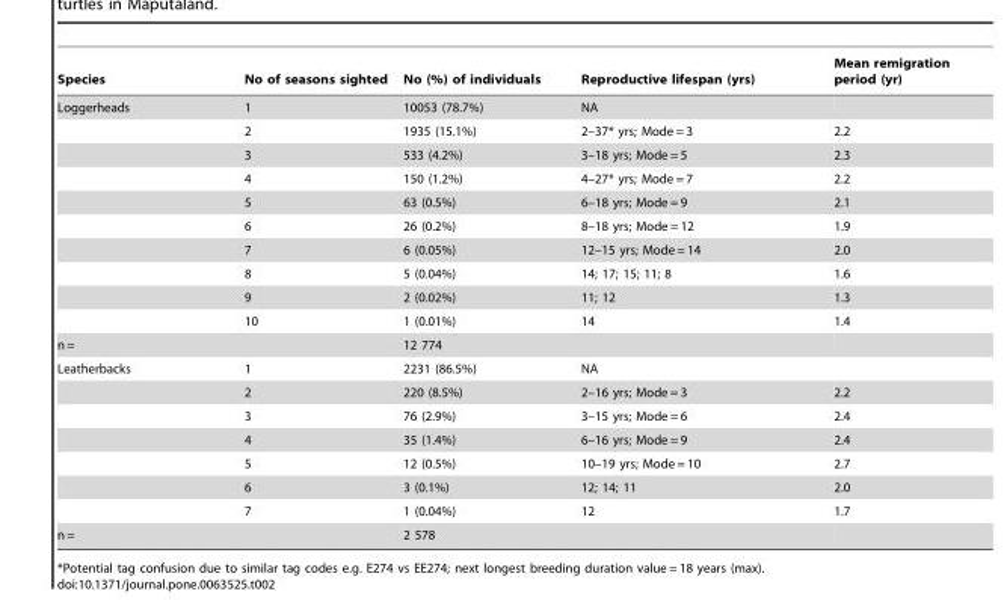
<table><thead><tr><td>Species</td><td>No of seasons sighted</td><td>No (%) of individuals</td><td>Reproductive lifespan (yrs)</td><td>Mean remigration period (yr)</td></tr></thead><tbody><tr><td rowspan="10">Loggerheads</td><td>1</td><td>10053 (78.7%)</td><td>NA</td><td></td></tr><tr><td>2</td><td>1935 (15.1%)</td><td>2–37* yrs; Mode = 3</td><td>2.2</td></tr><tr><td>3</td><td>533 (4.2%)</td><td>3–18 yrs; Mode = 5</td><td>2.3</td></tr><tr><td>4</td><td>150 (1.2%)</td><td>4–27* yrs; Mode = 7</td><td>2.2</td></tr><tr><td>5</td><td>63 (0.5%)</td><td>6–18 yrs; Mode = 9</td><td>2.1</td></tr><tr><td>6</td><td>26 (0.2%)</td><td>8–18 yrs; Mode = 12</td><td>1.9</td></tr><tr><td>7</td><td>6 (0.05%)</td><td>12–15 yrs; Mode = 14</td><td>2.0</td></tr><tr><td>8</td><td>5 (0.04%)</td><td>14; 17; 15; 11; 8</td><td>1.6</td></tr><tr><td>9</td><td>2 (0.02%)</td><td>11; 12</td><td>1.3</td></tr><tr><td>10</td><td>1 (0.01%)</td><td>14</td><td>1.4</td></tr><tr><td>n =</td><td></td><td>12 774</td><td></td><td></td></tr><tr><td rowspan="7">Leatherbacks</td><td>1</td><td>2231 (86.5%)</td><td>NA</td><td></td></tr><tr><td>2</td><td>220 (8.5%)</td><td>2–16 yrs; Mode = 3</td><td>2.2</td></tr><tr><td>3</td><td>76 (2.9%)</td><td>3–15 yrs; Mode = 6</td><td>2.4</td></tr><tr><td>4</td><td>35 (1.4%)</td><td>6–16 yrs; Mode = 9</td><td>2.4</td></tr><tr><td>5</td><td>12 (0.5%)</td><td>10–19 yrs; Mode = 10</td><td>2.7</td></tr><tr><td>6</td><td>3 (0.1%)</td><td>12; 14; 11</td><td>2.0</td></tr><tr><td>7</td><td>1 (0.04%)</td><td>12</td><td>1.7</td></tr><tr><td>n =</td><td></td><td>2 578</td><td></td><td></td></tr></tbody></table>